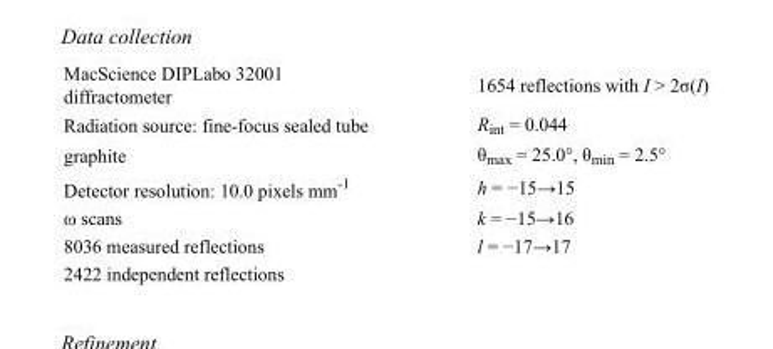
<table><tbody><tr><td>MacScience DIPLabo 32001 diffractometer</td><td>1654 reflections with I &gt; 2σ(I)</td></tr><tr><td>Radiation source: fine-focus sealed tube</td><td>R<sub>int</sub> = 0.044</td></tr><tr><td>graphite</td><td>θ<sub>max</sub> = 25.0°, θ<sub>min</sub> = 2.5°</td></tr><tr><td>Detector resolution: 10.0 pixels mm<sup>-1</sup></td><td>h = −15→15</td></tr><tr><td>ω scans</td><td>k = −15→16</td></tr><tr><td>8036 measured reflections</td><td>l = −17→17</td></tr><tr><td>2422 independent reflections</td><td></td></tr></tbody></table>